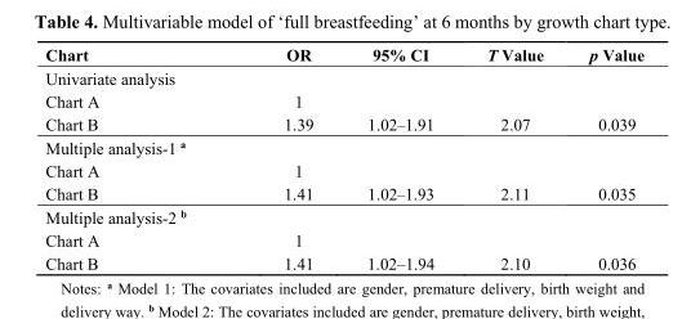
<table><thead><tr><td>Chart</td><td>OR</td><td>95% CI</td><td>T Value</td><td>p Value</td></tr></thead><tbody><tr><td colspan="5">Univariate analysis</td></tr><tr><td>Chart A</td><td>1</td><td></td><td></td><td></td></tr><tr><td>Chart B</td><td>1.39</td><td>1.02–1.91</td><td>2.07</td><td>0.039</td></tr><tr><td colspan="5">Multiple analysis-1 <sup>a</sup></td></tr><tr><td>Chart A</td><td>1</td><td></td><td></td><td></td></tr><tr><td>Chart B</td><td>1.41</td><td>1.02–1.93</td><td>2.11</td><td>0.035</td></tr><tr><td colspan="5">Multiple analysis-2 <sup>b</sup></td></tr><tr><td>Chart A</td><td>1</td><td></td><td></td><td></td></tr><tr><td>Chart B</td><td>1.41</td><td>1.02–1.94</td><td>2.10</td><td>0.036</td></tr></tbody></table>